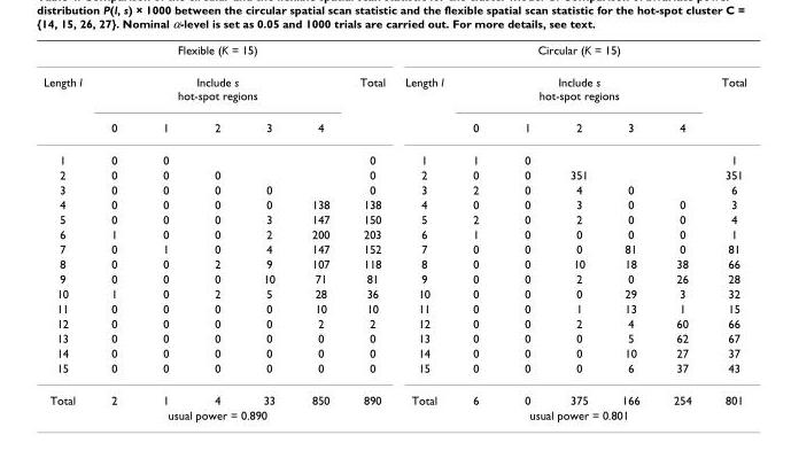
<table><tbody><tr><td colspan="7">Flexible (K = 15)</td><td colspan="7">Circular (K = 15)</td></tr><tr><td rowspan="2">Length l</td><td colspan="5">Include s hot-spot regions</td><td>Total</td><td>Length l</td><td colspan="5">Include s hot-spot regions</td><td>Total</td></tr><tr><td>0</td><td>1</td><td>2</td><td>3</td><td>4</td><td></td><td></td><td>0</td><td>1</td><td>2</td><td>3</td><td>4</td><td></td></tr><tr><td>1</td><td>0</td><td>0</td><td></td><td></td><td></td><td>0</td><td>1</td><td>1</td><td>0</td><td></td><td></td><td></td><td>1</td></tr><tr><td>2</td><td>0</td><td>0</td><td>0</td><td></td><td></td><td>0</td><td>2</td><td>0</td><td>0</td><td>351</td><td></td><td></td><td>351</td></tr><tr><td>3</td><td>0</td><td>0</td><td>0</td><td>0</td><td></td><td>0</td><td>3</td><td>2</td><td>0</td><td>4</td><td>0</td><td></td><td>6</td></tr><tr><td>4</td><td>0</td><td>0</td><td>0</td><td>0</td><td>138</td><td>138</td><td>4</td><td>0</td><td>0</td><td>3</td><td>0</td><td>0</td><td>3</td></tr><tr><td>5</td><td>0</td><td>0</td><td>0</td><td>3</td><td>147</td><td>150</td><td>5</td><td>2</td><td>0</td><td>2</td><td>0</td><td>0</td><td>4</td></tr><tr><td>6</td><td>1</td><td>0</td><td>0</td><td>2</td><td>200</td><td>203</td><td>6</td><td>1</td><td>0</td><td>0</td><td>0</td><td>0</td><td>1</td></tr><tr><td>7</td><td>0</td><td>1</td><td>0</td><td>4</td><td>147</td><td>152</td><td>7</td><td>0</td><td>0</td><td>0</td><td>81</td><td>0</td><td>81</td></tr><tr><td>8</td><td>0</td><td>0</td><td>2</td><td>9</td><td>107</td><td>118</td><td>8</td><td>0</td><td>0</td><td>10</td><td>18</td><td>38</td><td>66</td></tr><tr><td>9</td><td>0</td><td>0</td><td>0</td><td>10</td><td>71</td><td>81</td><td>9</td><td>0</td><td>0</td><td>2</td><td>0</td><td>26</td><td>28</td></tr><tr><td>10</td><td>1</td><td>0</td><td>2</td><td>5</td><td>28</td><td>36</td><td>10</td><td>0</td><td>0</td><td>0</td><td>29</td><td>3</td><td>32</td></tr><tr><td>11</td><td>0</td><td>0</td><td>0</td><td>0</td><td>10</td><td>10</td><td>11</td><td>0</td><td>0</td><td>1</td><td>13</td><td>1</td><td>15</td></tr><tr><td>12</td><td>0</td><td>0</td><td>0</td><td>0</td><td>2</td><td>2</td><td>12</td><td>0</td><td>0</td><td>2</td><td>4</td><td>60</td><td>66</td></tr><tr><td>13</td><td>0</td><td>0</td><td>0</td><td>0</td><td>0</td><td>0</td><td>13</td><td>0</td><td>0</td><td>0</td><td>5</td><td>62</td><td>67</td></tr><tr><td>14</td><td>0</td><td>0</td><td>0</td><td>0</td><td>0</td><td>0</td><td>14</td><td>0</td><td>0</td><td>0</td><td>10</td><td>27</td><td>37</td></tr><tr><td>15</td><td>0</td><td>0</td><td>0</td><td>0</td><td>0</td><td>0</td><td>15</td><td>0</td><td>0</td><td>0</td><td>6</td><td>37</td><td>43</td></tr><tr><td rowspan="2">Total</td><td>2</td><td>1</td><td>4</td><td>33</td><td>850</td><td>890</td><td>Total</td><td>6</td><td>0</td><td>375</td><td>166</td><td>254</td><td>801</td></tr><tr><td colspan="5">usual power = 0.890</td><td></td><td></td><td colspan="5">usual power = 0.801</td><td></td></tr></tbody></table>